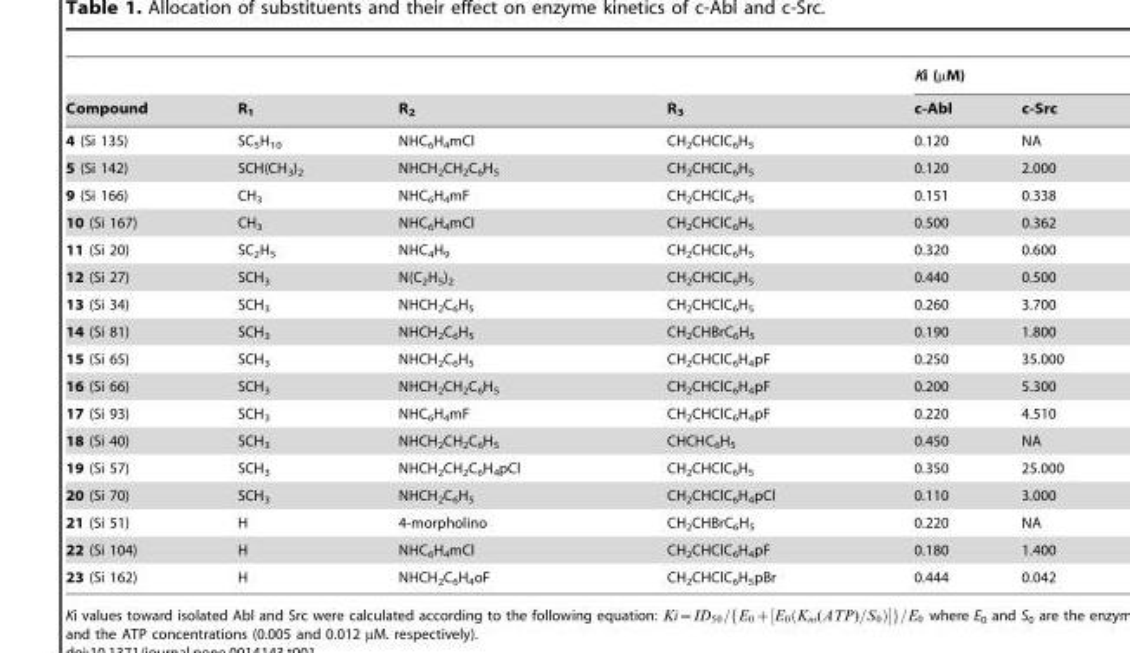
<table><thead><tr><td rowspan="2">Compound</td><td rowspan="2">R<sub>1</sub></td><td rowspan="2">R<sub>2</sub></td><td rowspan="2">R<sub>3</sub></td><td colspan="2">Ki (µM)</td></tr><tr><td>c-Abl</td><td>c-Src</td></tr></thead><tbody><tr><td>4 (Si 135)</td><td>SC<sub>5</sub>H<sub>10</sub></td><td>NHC<sub>6</sub>H<sub>4</sub>mCl</td><td>CH<sub>2</sub>CHClC<sub>6</sub>H<sub>5</sub></td><td>0.120</td><td>NA</td></tr><tr><td>5 (Si 142)</td><td>SCH(CH<sub>3</sub>)<sub>2</sub></td><td>NHCH<sub>2</sub>CH<sub>2</sub>C<sub>6</sub>H<sub>5</sub></td><td>CH<sub>2</sub>CHClC<sub>6</sub>H<sub>5</sub></td><td>0.120</td><td>2.000</td></tr><tr><td>9 (Si 166)</td><td>CH<sub>3</sub></td><td>NHC<sub>6</sub>H<sub>4</sub>mF</td><td>CH<sub>2</sub>CHClC<sub>6</sub>H<sub>5</sub></td><td>0.151</td><td>0.338</td></tr><tr><td>10 (Si 167)</td><td>CH<sub>3</sub></td><td>NHC<sub>6</sub>H<sub>4</sub>mCl</td><td>CH<sub>2</sub>CHClC<sub>6</sub>H<sub>5</sub></td><td>0.500</td><td>0.362</td></tr><tr><td>11 (Si 20)</td><td>SC<sub>2</sub>H<sub>5</sub></td><td>NHC<sub>4</sub>H<sub>9</sub></td><td>CH<sub>2</sub>CHClC<sub>6</sub>H<sub>5</sub></td><td>0.320</td><td>0.600</td></tr><tr><td>12 (Si 27)</td><td>SCH<sub>3</sub></td><td>N(C<sub>2</sub>H<sub>5</sub>)<sub>2</sub></td><td>CH<sub>2</sub>CHClC<sub>6</sub>H<sub>5</sub></td><td>0.440</td><td>0.500</td></tr><tr><td>13 (Si 34)</td><td>SCH<sub>3</sub></td><td>NHCH<sub>2</sub>C<sub>6</sub>H<sub>5</sub></td><td>CH<sub>2</sub>CHClC<sub>6</sub>H<sub>5</sub></td><td>0.260</td><td>3.700</td></tr><tr><td>14 (Si 81)</td><td>SCH<sub>3</sub></td><td>NHCH<sub>2</sub>C<sub>6</sub>H<sub>5</sub></td><td>CH<sub>2</sub>CHBrC<sub>6</sub>H<sub>5</sub></td><td>0.190</td><td>1.800</td></tr><tr><td>15 (Si 65)</td><td>SCH<sub>3</sub></td><td>NHCH<sub>2</sub>C<sub>6</sub>H<sub>5</sub></td><td>CH<sub>2</sub>CHClC<sub>6</sub>H<sub>4</sub>pF</td><td>0.250</td><td>35.000</td></tr><tr><td>16 (Si 66)</td><td>SCH<sub>3</sub></td><td>NHCH<sub>2</sub>CH<sub>2</sub>C<sub>6</sub>H<sub>5</sub></td><td>CH<sub>2</sub>CHClC<sub>6</sub>H<sub>4</sub>pF</td><td>0.200</td><td>5.300</td></tr><tr><td>17 (Si 93)</td><td>SCH<sub>3</sub></td><td>NHC<sub>6</sub>H<sub>4</sub>mF</td><td>CH<sub>2</sub>CHClC<sub>6</sub>H<sub>4</sub>pF</td><td>0.220</td><td>4.510</td></tr><tr><td>18 (Si 40)</td><td>SCH<sub>3</sub></td><td>NHCH<sub>2</sub>CH<sub>2</sub>C<sub>6</sub>H<sub>5</sub></td><td>CHCHC<sub>6</sub>H<sub>5</sub></td><td>0.450</td><td>NA</td></tr><tr><td>19 (Si 57)</td><td>SCH<sub>3</sub></td><td>NHCH<sub>2</sub>CH<sub>2</sub>C<sub>6</sub>H<sub>4</sub>pCl</td><td>CH<sub>2</sub>CHClC<sub>6</sub>H<sub>5</sub></td><td>0.350</td><td>25.000</td></tr><tr><td>20 (Si 70)</td><td>SCH<sub>3</sub></td><td>NHCH<sub>2</sub>C<sub>6</sub>H<sub>5</sub></td><td>CH<sub>2</sub>CHClC<sub>6</sub>H<sub>4</sub>pCl</td><td>0.110</td><td>3.000</td></tr><tr><td>21 (Si 51)</td><td>H</td><td>4-morpholino</td><td>CH<sub>2</sub>CHBrC<sub>6</sub>H<sub>5</sub></td><td>0.220</td><td>NA</td></tr><tr><td>22 (Si 104)</td><td>H</td><td>NHC<sub>6</sub>H<sub>4</sub>mCl</td><td>CH<sub>2</sub>CHClC<sub>6</sub>H<sub>4</sub>pF</td><td>0.180</td><td>1.400</td></tr><tr><td>23 (Si 162)</td><td>H</td><td>NHCH<sub>2</sub>C<sub>6</sub>H<sub>4</sub>oF</td><td>CH<sub>2</sub>CHClC<sub>6</sub>H<sub>5</sub>pBr</td><td>0.444</td><td>0.042</td></tr></tbody></table>